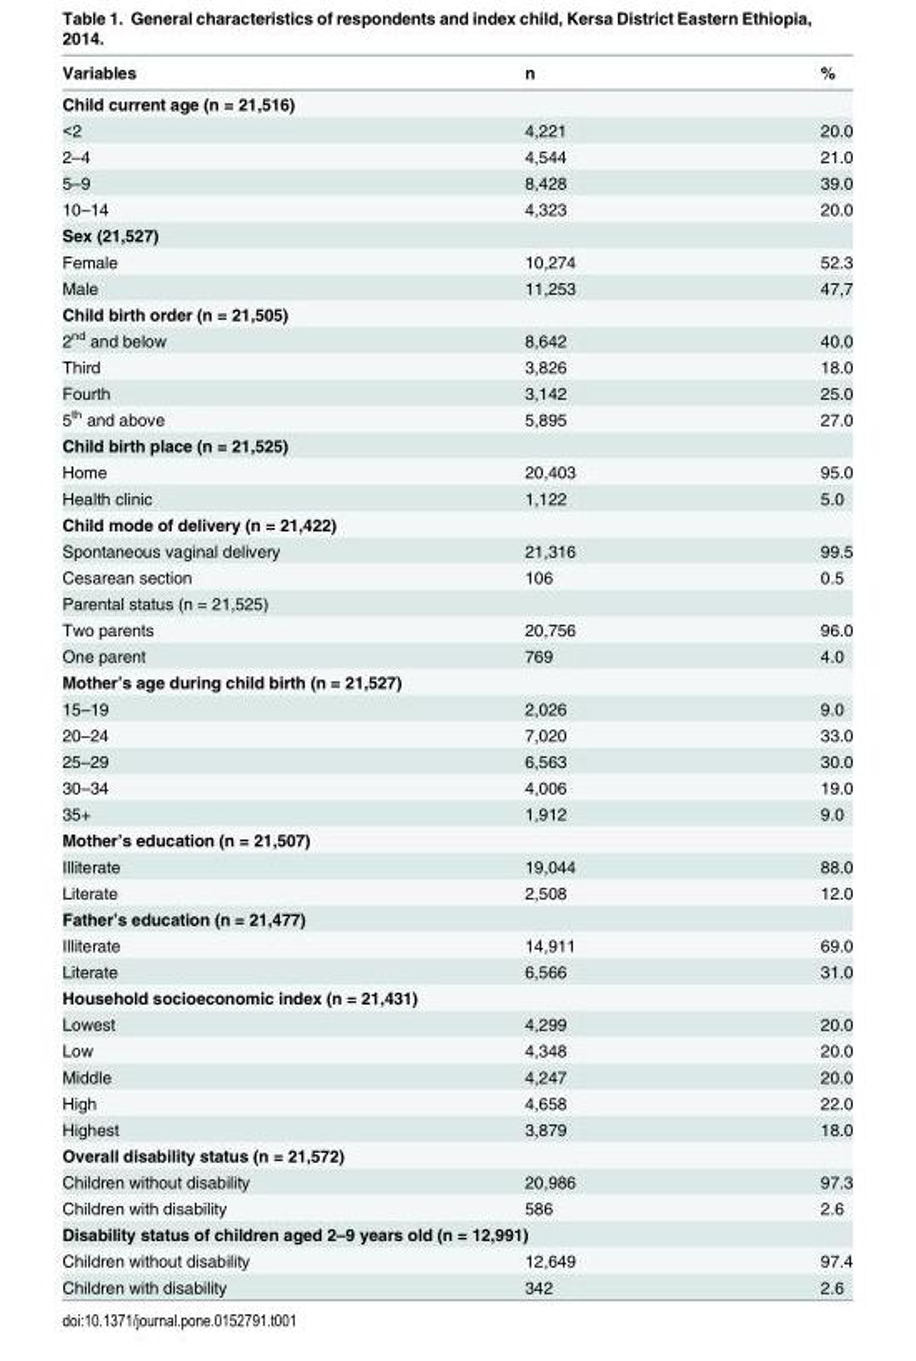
<table><thead><tr><td>Variables</td><td>n</td><td>%</td></tr></thead><tbody><tr><td colspan="3">Child current age (n = 21,516)</td></tr><tr><td>&lt;2</td><td>4,221</td><td>20.0</td></tr><tr><td>2–4</td><td>4,544</td><td>21.0</td></tr><tr><td>5–9</td><td>8,428</td><td>39.0</td></tr><tr><td>10–14</td><td>4,323</td><td>20.0</td></tr><tr><td colspan="3">Sex (21,527)</td></tr><tr><td>Female</td><td>10,274</td><td>52.3</td></tr><tr><td>Male</td><td>11,253</td><td>47,7</td></tr><tr><td colspan="3">Child birth order (n = 21,505)</td></tr><tr><td>2<sup>nd</sup> and below</td><td>8,642</td><td>40.0</td></tr><tr><td>Third</td><td>3,826</td><td>18.0</td></tr><tr><td>Fourth</td><td>3,142</td><td>25.0</td></tr><tr><td>5<sup>th</sup> and above</td><td>5,895</td><td>27.0</td></tr><tr><td colspan="3">Child birth place (n = 21,525)</td></tr><tr><td>Home</td><td>20,403</td><td>95.0</td></tr><tr><td>Health clinic</td><td>1,122</td><td>5.0</td></tr><tr><td colspan="3">Child mode of delivery (n = 21,422)</td></tr><tr><td>Spontaneous vaginal delivery</td><td>21,316</td><td>99.5</td></tr><tr><td>Cesarean section</td><td>106</td><td>0.5</td></tr><tr><td colspan="3">Parental status (n = 21,525)</td></tr><tr><td>Two parents</td><td>20,756</td><td>96.0</td></tr><tr><td>One parent</td><td>769</td><td>4.0</td></tr><tr><td colspan="3">Mother’s age during child birth (n = 21,527)</td></tr><tr><td>15–19</td><td>2,026</td><td>9.0</td></tr><tr><td>20–24</td><td>7,020</td><td>33.0</td></tr><tr><td>25–29</td><td>6,563</td><td>30.0</td></tr><tr><td>30–34</td><td>4,006</td><td>19.0</td></tr><tr><td>35+</td><td>1,912</td><td>9.0</td></tr><tr><td colspan="3">Mother’s education (n = 21,507)</td></tr><tr><td>Illiterate</td><td>19,044</td><td>88.0</td></tr><tr><td>Literate</td><td>2,508</td><td>12.0</td></tr><tr><td colspan="3">Father’s education (n = 21,477)</td></tr><tr><td>Illiterate</td><td>14,911</td><td>69.0</td></tr><tr><td>Literate</td><td>6,566</td><td>31.0</td></tr><tr><td colspan="3">Household socioeconomic index (n = 21,431)</td></tr><tr><td>Lowest</td><td>4,299</td><td>20.0</td></tr><tr><td>Low</td><td>4,348</td><td>20.0</td></tr><tr><td>Middle</td><td>4,247</td><td>20.0</td></tr><tr><td>High</td><td>4,658</td><td>22.0</td></tr><tr><td>Highest</td><td>3,879</td><td>18.0</td></tr><tr><td colspan="3">Overall disability status (n = 21,572)</td></tr><tr><td>Children without disability</td><td>20,986</td><td>97.3</td></tr><tr><td>Children with disability</td><td>586</td><td>2.6</td></tr><tr><td colspan="3">Disability status of children aged 2–9 years old (n = 12,991)</td></tr><tr><td>Children without disability</td><td>12,649</td><td>97.4</td></tr><tr><td>Children with disability</td><td>342</td><td>2.6</td></tr></tbody></table>